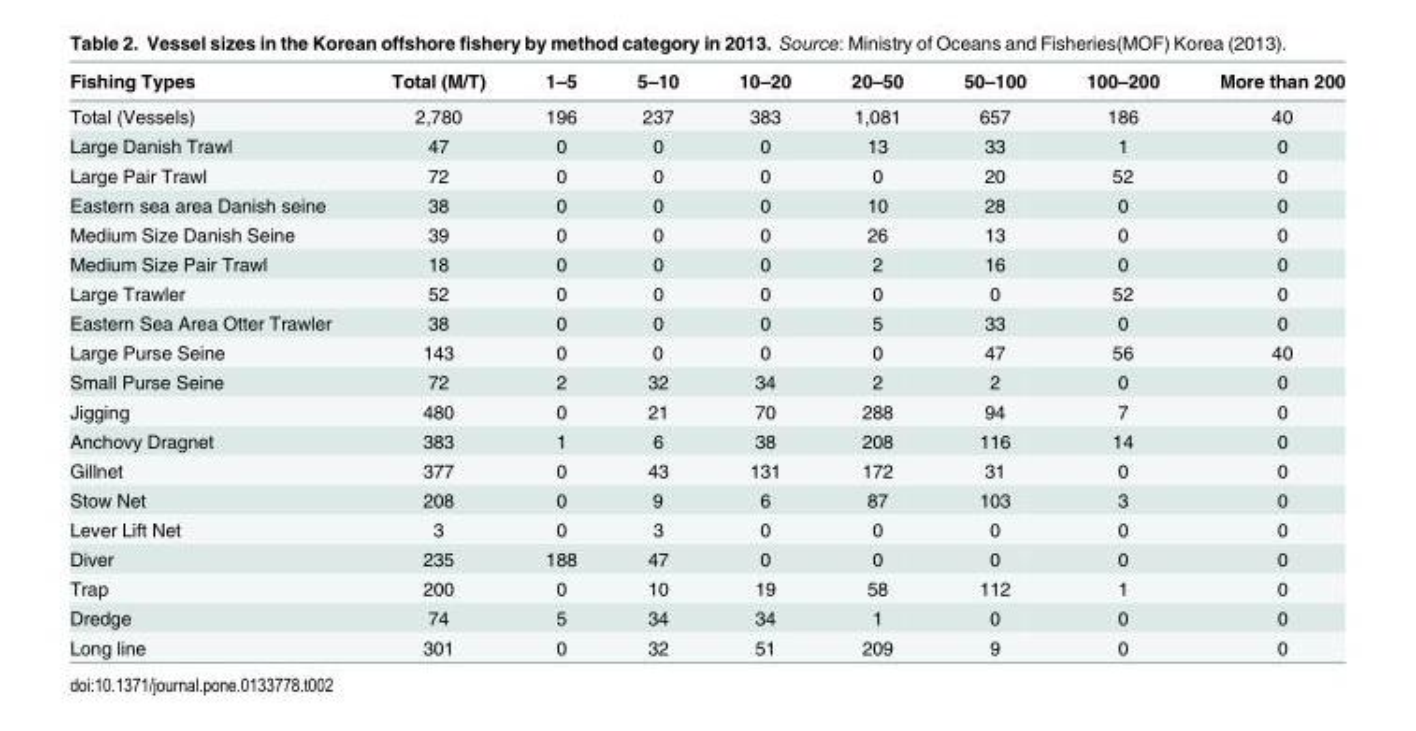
<table><thead><tr><td>Fishing Types</td><td>Total (M/T)</td><td>1–5</td><td>5–10</td><td>10–20</td><td>20–50</td><td>50–100</td><td>100–200</td><td>More than 200</td></tr></thead><tbody><tr><td>Total (Vessels)</td><td>2,780</td><td>196</td><td>237</td><td>383</td><td>1,081</td><td>657</td><td>186</td><td>40</td></tr><tr><td>Large Danish Trawl</td><td>47</td><td>0</td><td>0</td><td>0</td><td>13</td><td>33</td><td>1</td><td>0</td></tr><tr><td>Large Pair Trawl</td><td>72</td><td>0</td><td>0</td><td>0</td><td>0</td><td>20</td><td>52</td><td>0</td></tr><tr><td>Eastern sea area Danish seine</td><td>38</td><td>0</td><td>0</td><td>0</td><td>10</td><td>28</td><td>0</td><td>0</td></tr><tr><td>Medium Size Danish Seine</td><td>39</td><td>0</td><td>0</td><td>0</td><td>26</td><td>13</td><td>0</td><td>0</td></tr><tr><td>Medium Size Pair Trawl</td><td>18</td><td>0</td><td>0</td><td>0</td><td>2</td><td>16</td><td>0</td><td>0</td></tr><tr><td>Large Trawler</td><td>52</td><td>0</td><td>0</td><td>0</td><td>0</td><td>0</td><td>52</td><td>0</td></tr><tr><td>Eastern Sea Area Otter Trawler</td><td>38</td><td>0</td><td>0</td><td>0</td><td>5</td><td>33</td><td>0</td><td>0</td></tr><tr><td>Large Purse Seine</td><td>143</td><td>0</td><td>0</td><td>0</td><td>0</td><td>47</td><td>56</td><td>40</td></tr><tr><td>Small Purse Seine</td><td>72</td><td>2</td><td>32</td><td>34</td><td>2</td><td>2</td><td>0</td><td>0</td></tr><tr><td>Jigging</td><td>480</td><td>0</td><td>21</td><td>70</td><td>288</td><td>94</td><td>7</td><td>0</td></tr><tr><td>Anchovy Dragnet</td><td>383</td><td>1</td><td>6</td><td>38</td><td>208</td><td>116</td><td>14</td><td>0</td></tr><tr><td>Gillnet</td><td>377</td><td>0</td><td>43</td><td>131</td><td>172</td><td>31</td><td>0</td><td>0</td></tr><tr><td>Stow Net</td><td>208</td><td>0</td><td>9</td><td>6</td><td>87</td><td>103</td><td>3</td><td>0</td></tr><tr><td>Lever Lift Net</td><td>3</td><td>0</td><td>3</td><td>0</td><td>0</td><td>0</td><td>0</td><td>0</td></tr><tr><td>Diver</td><td>235</td><td>188</td><td>47</td><td>0</td><td>0</td><td>0</td><td>0</td><td>0</td></tr><tr><td>Trap</td><td>200</td><td>0</td><td>10</td><td>19</td><td>58</td><td>112</td><td>1</td><td>0</td></tr><tr><td>Dredge</td><td>74</td><td>5</td><td>34</td><td>34</td><td>1</td><td>0</td><td>0</td><td>0</td></tr><tr><td>Long line</td><td>301</td><td>0</td><td>32</td><td>51</td><td>209</td><td>9</td><td>0</td><td>0</td></tr></tbody></table>